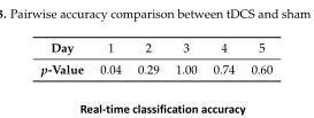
<table><thead><tr><td>Day</td><td>1</td><td>2</td><td>3</td><td>4</td><td>5</td></tr></thead><tbody><tr><td>p-Value</td><td>0.04</td><td>0.29</td><td>1.00</td><td>0.74</td><td>0.60</td></tr></tbody></table>